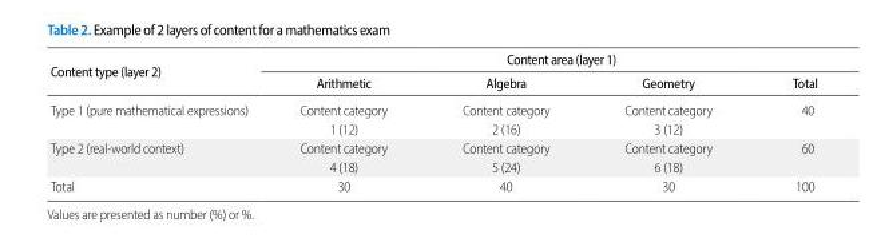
<table><thead><tr><td rowspan="2">Content type (layer 2)</td><td colspan="4">Content area (layer 1)</td></tr><tr><td>Arithmetic</td><td>Algebra</td><td>Geometry</td><td>Total</td></tr></thead><tbody><tr><td rowspan="2">Type 1 (pure mathematical expressions)</td><td>Content category</td><td>Content category</td><td>Content category</td><td>40</td></tr><tr><td>1 (12)</td><td>2 (16)</td><td>3 (12)</td><td></td></tr><tr><td rowspan="2">Type 2 (real-world context)</td><td>Content category</td><td>Content category</td><td>Content category</td><td>60</td></tr><tr><td>4 (18)</td><td>5 (24)</td><td>6 (18)</td><td></td></tr><tr><td>Total</td><td>30</td><td>40</td><td>30</td><td>100</td></tr></tbody></table>